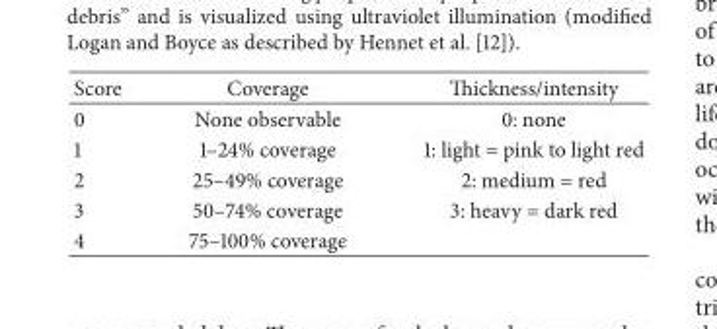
<table><thead><tr><td>Score</td><td>Coverage</td><td>Thickness/intensity</td></tr></thead><tbody><tr><td>0</td><td>None observable</td><td>0: none</td></tr><tr><td>1</td><td>1–24% coverage</td><td>1: light = pink to light red</td></tr><tr><td>2</td><td>25–49% coverage</td><td>2: medium = red</td></tr><tr><td>3</td><td>50–74% coverage</td><td>3: heavy = dark red</td></tr><tr><td>4</td><td>75–100% coverage</td><td></td></tr></tbody></table>